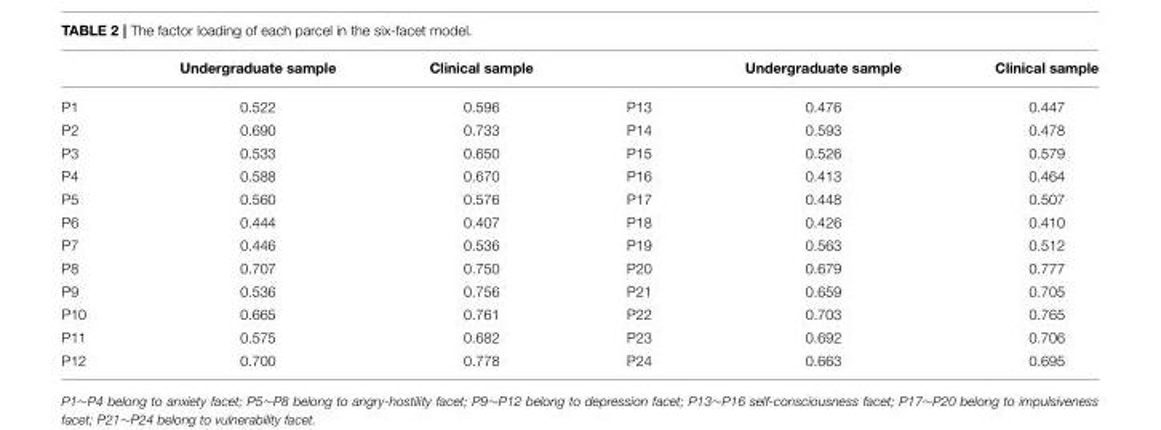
<table><thead><tr><td></td><td>Undergraduate sample</td><td>Clinical sample</td><td></td><td>Undergraduate sample</td><td>Clinical sample</td></tr></thead><tbody><tr><td>P1</td><td>0.522</td><td>0.596</td><td>P13</td><td>0.476</td><td>0.447</td></tr><tr><td>P2</td><td>0.690</td><td>0.733</td><td>P14</td><td>0.593</td><td>0.478</td></tr><tr><td>P3</td><td>0.533</td><td>0.650</td><td>P15</td><td>0.526</td><td>0.579</td></tr><tr><td>P4</td><td>0.588</td><td>0.670</td><td>P16</td><td>0.413</td><td>0.464</td></tr><tr><td>P5</td><td>0.560</td><td>0.576</td><td>P17</td><td>0.448</td><td>0.507</td></tr><tr><td>P6</td><td>0.444</td><td>0.407</td><td>P18</td><td>0.426</td><td>0.410</td></tr><tr><td>P7</td><td>0.446</td><td>0.536</td><td>P19</td><td>0.563</td><td>0.512</td></tr><tr><td>P8</td><td>0.707</td><td>0.750</td><td>P20</td><td>0.679</td><td>0.777</td></tr><tr><td>P9</td><td>0.536</td><td>0.756</td><td>P21</td><td>0.659</td><td>0.705</td></tr><tr><td>P10</td><td>0.665</td><td>0.761</td><td>P22</td><td>0.703</td><td>0.765</td></tr><tr><td>P11</td><td>0.575</td><td>0.682</td><td>P23</td><td>0.692</td><td>0.706</td></tr><tr><td>P12</td><td>0.700</td><td>0.778</td><td>P24</td><td>0.663</td><td>0.695</td></tr></tbody></table>